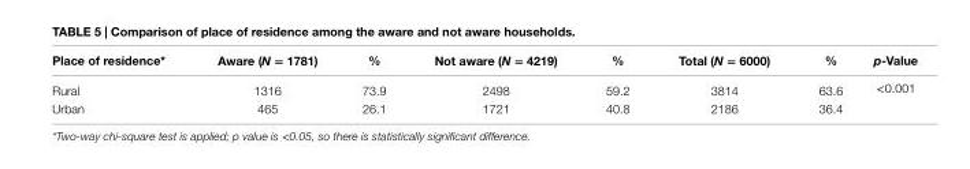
<table><thead><tr><td>Place of residence*</td><td>aware (N = 1781)</td><td>%</td><td>not aware (N = 4219)</td><td>%</td><td>Total (N = 6000)</td><td>%</td><td>p-Value</td></tr></thead><tbody><tr><td>Rural</td><td>1316</td><td>73.9</td><td>2498</td><td>59.2</td><td>3814</td><td>63.6</td><td rowspan="2">&lt;0.001</td></tr><tr><td>Urban</td><td>465</td><td>26.1</td><td>1721</td><td>40.8</td><td>2186</td><td>36.4</td></tr></tbody></table>